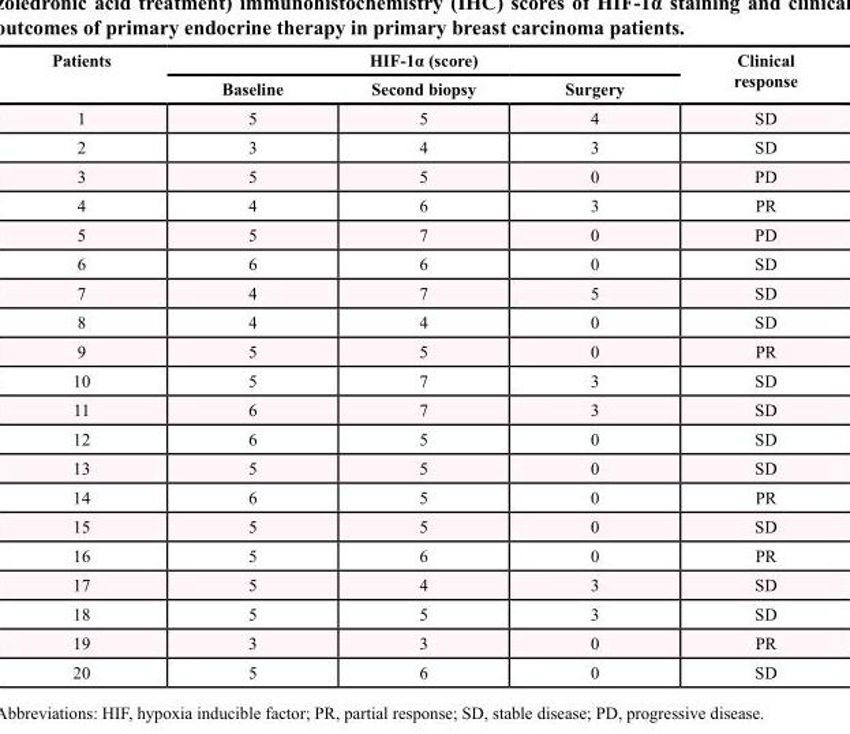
<table><thead><tr><td rowspan="2">Patients</td><td colspan="3">HIF-1α (score)</td><td rowspan="2">Clinical response</td></tr><tr><td>Baseline</td><td>Second biopsy</td><td>Surgery</td></tr></thead><tbody><tr><td>1</td><td>5</td><td>5</td><td>4</td><td>SD</td></tr><tr><td>2</td><td>3</td><td>4</td><td>3</td><td>SD</td></tr><tr><td>3</td><td>5</td><td>5</td><td>0</td><td>PD</td></tr><tr><td>4</td><td>4</td><td>6</td><td>3</td><td>PR</td></tr><tr><td>5</td><td>5</td><td>7</td><td>0</td><td>PD</td></tr><tr><td>6</td><td>6</td><td>6</td><td>0</td><td>SD</td></tr><tr><td>7</td><td>4</td><td>7</td><td>5</td><td>SD</td></tr><tr><td>8</td><td>4</td><td>4</td><td>0</td><td>SD</td></tr><tr><td>9</td><td>5</td><td>5</td><td>0</td><td>PR</td></tr><tr><td>10</td><td>5</td><td>7</td><td>3</td><td>SD</td></tr><tr><td>11</td><td>6</td><td>7</td><td>3</td><td>SD</td></tr><tr><td>12</td><td>6</td><td>5</td><td>0</td><td>SD</td></tr><tr><td>13</td><td>5</td><td>5</td><td>0</td><td>SD</td></tr><tr><td>14</td><td>6</td><td>5</td><td>0</td><td>PR</td></tr><tr><td>15</td><td>5</td><td>5</td><td>0</td><td>SD</td></tr><tr><td>16</td><td>5</td><td>6</td><td>0</td><td>PR</td></tr><tr><td>17</td><td>5</td><td>4</td><td>3</td><td>SD</td></tr><tr><td>18</td><td>5</td><td>5</td><td>3</td><td>SD</td></tr><tr><td>19</td><td>3</td><td>3</td><td>0</td><td>PR</td></tr><tr><td>20</td><td>5</td><td>6</td><td>0</td><td>SD</td></tr></tbody></table>